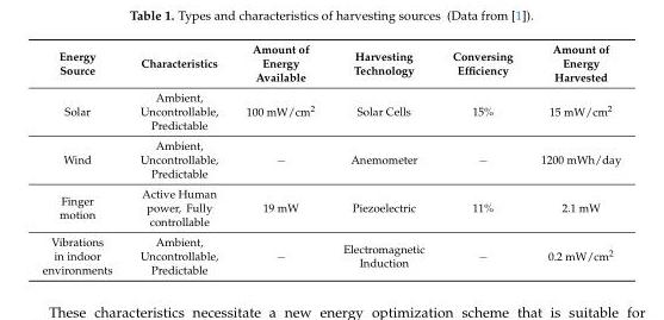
<table><thead><tr><td>Energy Source</td><td>Characteristics</td><td>Amount of Energy Available</td><td>Harvesting Technology</td><td>Conversing Efficiency</td><td>Amount of Energy Harvested</td></tr></thead><tbody><tr><td>Solar</td><td>Ambient, Uncontrollable, Predictable</td><td>100 mW/cm<sup>2</sup></td><td>Solar Cells</td><td>15%</td><td>15 mW/cm<sup>2</sup></td></tr><tr><td>Wind</td><td>Ambient, Uncontrollable, Predictable</td><td>−</td><td>Anemometer</td><td>−</td><td>1200 mWh/day</td></tr><tr><td>Finger motion</td><td>Active Human power, Fully controllable</td><td>19 mW</td><td>Piezoelectric</td><td>11%</td><td>2.1 mW</td></tr><tr><td>Vibrations in indoor environments</td><td>Ambient, Uncontrollable, Predictable</td><td>−</td><td>Electromagnetic Induction</td><td>−</td><td>0.2 mW/cm<sup>2</sup></td></tr></tbody></table>